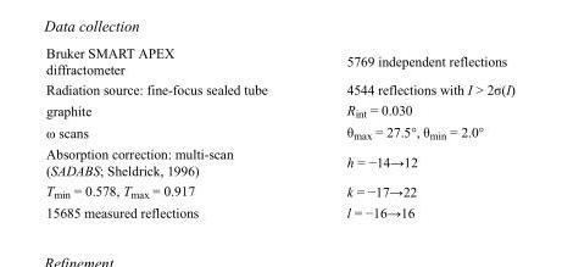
<table><tbody><tr><td>Bruker SMART APEX diffractometer</td><td>5769 independent reflections</td></tr><tr><td>Radiation source: fine-focus sealed tube</td><td>4544 reflections with I &gt; 2σ(I)</td></tr><tr><td>graphite</td><td>R<sub>int</sub> = 0.030</td></tr><tr><td>ω scans</td><td>θ<sub>max</sub> = 27.5°, θ<sub>min</sub> = 2.0°</td></tr><tr><td>Absorption correction: multi-scan (SADABS; Sheldrick, 1996)</td><td>h = −14→12</td></tr><tr><td>T<sub>min</sub> = 0.578, T<sub>max</sub> = 0.917</td><td>k = −17→22</td></tr><tr><td>15685 measured reflections</td><td>l = −16→16</td></tr></tbody></table>